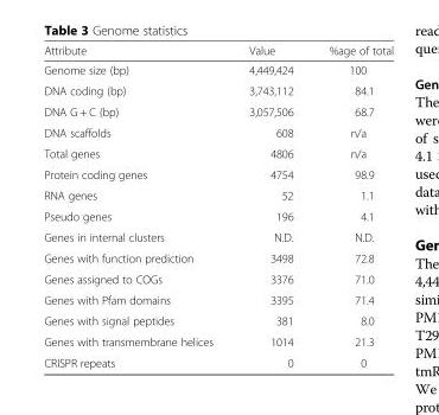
<table><thead><tr><td>Attribute</td><td>Value</td><td>%age of total</td></tr></thead><tbody><tr><td>Genome size (bp)</td><td>4,449,424</td><td>100</td></tr><tr><td>DNA coding (bp)</td><td>3,743,112</td><td>84.1</td></tr><tr><td>DNA G + C (bp)</td><td>3,057,506</td><td>68.7</td></tr><tr><td>DNA scaffolds</td><td>608</td><td>n/a</td></tr><tr><td>Total genes</td><td>4806</td><td>n/a</td></tr><tr><td>Protein coding genes</td><td>4754</td><td>98.9</td></tr><tr><td>RNA genes</td><td>52</td><td>1.1</td></tr><tr><td>Pseudo genes</td><td>196</td><td>4.1</td></tr><tr><td>Genes in internal clusters</td><td>N.D.</td><td>N.D.</td></tr><tr><td>Genes with function prediction</td><td>3498</td><td>72.8</td></tr><tr><td>Genes assigned to COGs</td><td>3376</td><td>71.0</td></tr><tr><td>Genes with Pfam domains</td><td>3395</td><td>71.4</td></tr><tr><td>Genes with signal peptides</td><td>381</td><td>8.0</td></tr><tr><td>Genes with transmembrane helices</td><td>1014</td><td>21.3</td></tr><tr><td>CRISPR repeats</td><td>0</td><td>0</td></tr></tbody></table>